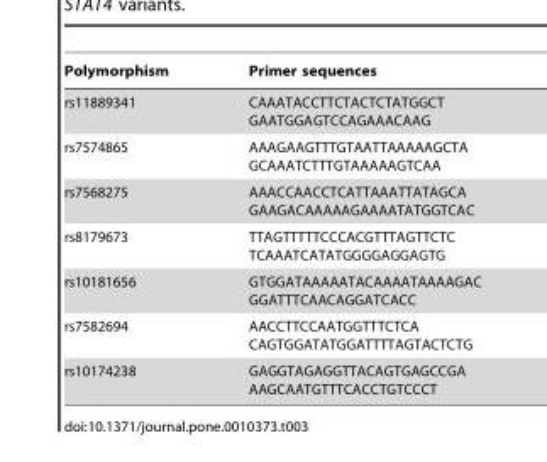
<table><thead><tr><td>Polymorphism</td><td>Primer sequences</td></tr></thead><tbody><tr><td>rs11889341</td><td>CAAATACCTTCTACTCTATGGCT GAATGGAGTCCAGAAACAAG</td></tr><tr><td>rs7574865</td><td>AAAGAAGTTTGTAATTAAAAAGCTA GCAAATCTTTGTAAAAAGTCAA</td></tr><tr><td>rs7568275</td><td>AAACCAACCTCATTAAATTATAGCA GAAGACAAAAAGAAAATATGGTCAC</td></tr><tr><td>rs8179673</td><td>TTAGTTTTTCCCACGTTTAGTTCTC TCAAATCATATGGGGAGGAGTG</td></tr><tr><td>rs10181656</td><td>GTGGATAAAAATACAAAATAAAAGAC GGATTTCAACAGGATCACC</td></tr><tr><td>rs7582694</td><td>AACCTTCCAATGGTTTCTCA CAGTGGATATGGATTTTAGTACTCTG</td></tr><tr><td>rs10174238</td><td>GAGGTAGAGGTTACAGTGAGCCGA AAGCAATGTTTCACCTGTCCCT</td></tr></tbody></table>